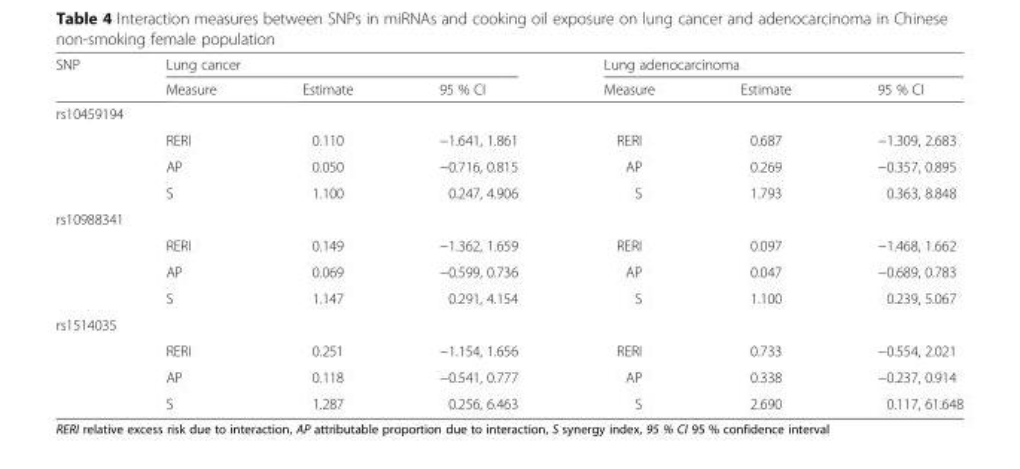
<table><thead><tr><td rowspan="2">SNP</td><td colspan="3">Lung cancer</td><td colspan="3">Lung adenocarcinoma</td></tr><tr><td>Measure</td><td>Estimate</td><td>95 % CI</td><td>Measure</td><td>Estimate</td><td>95 % CI</td></tr></thead><tbody><tr><td colspan="7">rs10459194</td></tr><tr><td></td><td>RERI</td><td>0.110</td><td>−1.641, 1.861</td><td>RERI</td><td>0.687</td><td>−1.309, 2.683</td></tr><tr><td></td><td>AP</td><td>0.050</td><td>−0.716, 0.815</td><td>AP</td><td>0.269</td><td>−0.357, 0.895</td></tr><tr><td></td><td>S</td><td>1.100</td><td>0.247, 4.906</td><td>S</td><td>1.793</td><td>0.363, 8.848</td></tr><tr><td colspan="7">rs10988341</td></tr><tr><td></td><td>RERI</td><td>0.149</td><td>−1.362, 1.659</td><td>RERI</td><td>0.097</td><td>−1.468, 1.662</td></tr><tr><td></td><td>AP</td><td>0.069</td><td>−0.599, 0.736</td><td>AP</td><td>0.047</td><td>−0.689, 0.783</td></tr><tr><td></td><td>S</td><td>1.147</td><td>0.291, 4.154</td><td>S</td><td>1.100</td><td>0.239, 5.067</td></tr><tr><td colspan="7">rs1514035</td></tr><tr><td></td><td>RERI</td><td>0.251</td><td>−1.154, 1.656</td><td>RERI</td><td>0.733</td><td>−0.554, 2.021</td></tr><tr><td></td><td>AP</td><td>0.118</td><td>−0.541, 0.777</td><td>AP</td><td>0.338</td><td>−0.237, 0.914</td></tr><tr><td></td><td>S</td><td>1.287</td><td>0.256, 6.463</td><td>S</td><td>2.690</td><td>0.117, 61.648</td></tr></tbody></table>